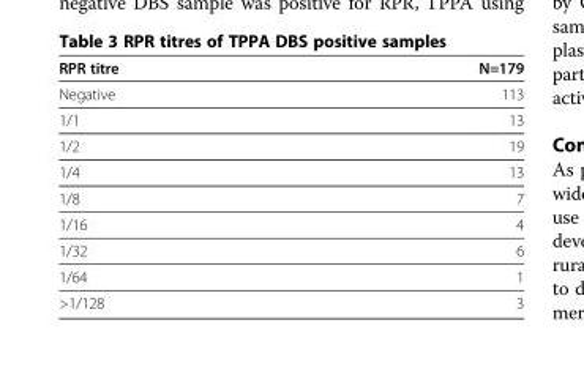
<table><thead><tr><td>RPR titre</td><td>N=179</td></tr></thead><tbody><tr><td>Negative</td><td>113</td></tr><tr><td>1/1</td><td>13</td></tr><tr><td>1/2</td><td>19</td></tr><tr><td>1/4</td><td>13</td></tr><tr><td>1/8</td><td>7</td></tr><tr><td>1/16</td><td>4</td></tr><tr><td>1/32</td><td>6</td></tr><tr><td>1/64</td><td>1</td></tr><tr><td>&gt;1/128</td><td>3</td></tr></tbody></table>